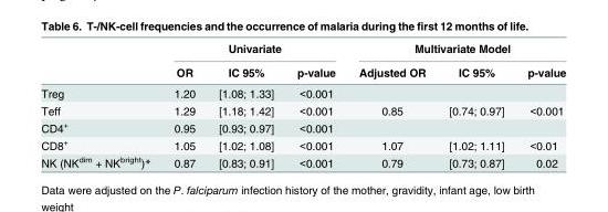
<table><thead><tr><td rowspan="2"></td><td rowspan="2">OR</td><td rowspan="2">Univariate IC 95%</td><td rowspan="2">p-value</td><td colspan="3">Multivariate Model</td></tr><tr><td>Adjusted OR</td><td>IC 95%</td><td>p-value</td></tr></thead><tbody><tr><td>Treg</td><td>1.20</td><td>[1.08; 1.33]</td><td>&lt;0.001</td><td></td><td></td><td></td></tr><tr><td>Teff</td><td>1.29</td><td>[1.18; 1.42]</td><td>&lt;0.001</td><td>0.85</td><td>[0.74; 0.97]</td><td>&lt;0.001</td></tr><tr><td>CD4<sup>+</sup></td><td>0.95</td><td>[0.93; 0.97]</td><td>&lt;0.001</td><td></td><td></td><td></td></tr><tr><td>CD8<sup>+</sup></td><td>1.05</td><td>[1.02; 1.08]</td><td>&lt;0.001</td><td>1.07</td><td>[1.02; 1.11]</td><td>&lt;0.01</td></tr><tr><td>NK (NK<sup>dim</sup> + NK<sup>bright</sup>)*</td><td>0.87</td><td>[0.83; 0.91]</td><td>&lt;0.001</td><td>0.79</td><td>[0.73; 0.87]</td><td>0.02</td></tr></tbody></table>